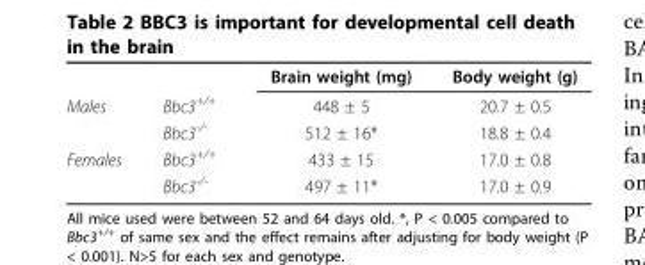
<table><thead><tr><td></td><td></td><td>Brain weight (mg)</td><td>Body weight (g)</td></tr></thead><tbody><tr><td rowspan="2">Males</td><td>Bbc3<sup>+/+</sup></td><td>448 ± 5</td><td>20.7 ± 0.5</td></tr><tr><td>Bbc3<sup>-/-</sup></td><td>512 ± 16*</td><td>18.8 ± 0.4</td></tr><tr><td rowspan="2">Females</td><td>Bbc3<sup>+/+</sup></td><td>433 ± 15</td><td>17.0 ± 0.8</td></tr><tr><td>Bbc3<sup>-/-</sup></td><td>497 ± 11*</td><td>17.0 ± 0.9</td></tr></tbody></table>